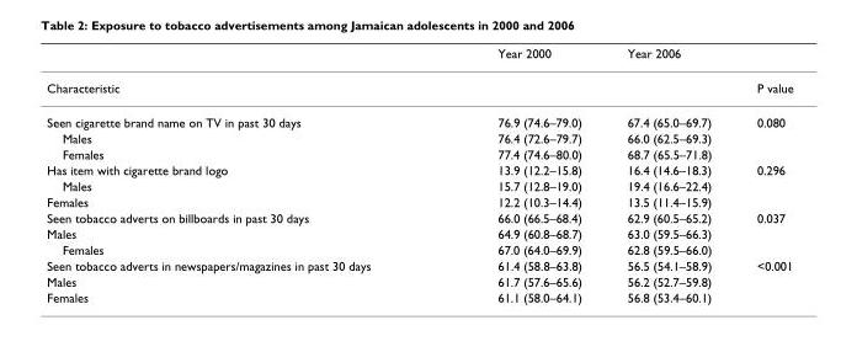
<table><thead><tr><td></td><td>Year 2000</td><td>Year 2006</td><td></td></tr></thead><tbody><tr><td>Characteristic</td><td></td><td></td><td>P value</td></tr><tr><td>Seen cigarette brand name on TV in past 30 days</td><td>76.9 (74.6–79.0)</td><td>67.4 (65.0–69.7)</td><td>0.080</td></tr><tr><td>Males</td><td>76.4 (72.6–79.7)</td><td>66.0 (62.5–69.3)</td><td></td></tr><tr><td>Females</td><td>77.4 (74.6–80.0)</td><td>68.7 (65.5–71.8)</td><td></td></tr><tr><td>Has item with cigarette brand logo</td><td>13.9 (12.2–15.8)</td><td>16.4 (14.6–18.3)</td><td>0.296</td></tr><tr><td>Males</td><td>15.7 (12.8–19.0)</td><td>19.4 (16.6–22.4)</td><td></td></tr><tr><td>Females</td><td>12.2 (10.3–14.4)</td><td>13.5 (11.4–15.9)</td><td></td></tr><tr><td>Seen tobacco adverts on billboards in past 30 days</td><td>66.0 (66.5–68.4)</td><td>62.9 (60.5–65.2)</td><td>0.037</td></tr><tr><td>Males</td><td>64.9 (60.8–68.7)</td><td>63.0 (59.5–66.3)</td><td></td></tr><tr><td>Females</td><td>67.0 (64.0–69.9)</td><td>62.8 (59.5–66.0)</td><td></td></tr><tr><td>Seen tobacco adverts in newspapers/magazines in past 30 days</td><td>61.4 (58.8–63.8)</td><td>56.5 (54.1–58.9)</td><td>&lt;0.001</td></tr><tr><td>Males</td><td>61.7 (57.6–65.6)</td><td>56.2 (52.7–59.8)</td><td></td></tr><tr><td>Females</td><td>61.1 (58.0–64.1)</td><td>56.8 (53.4–60.1)</td><td></td></tr></tbody></table>